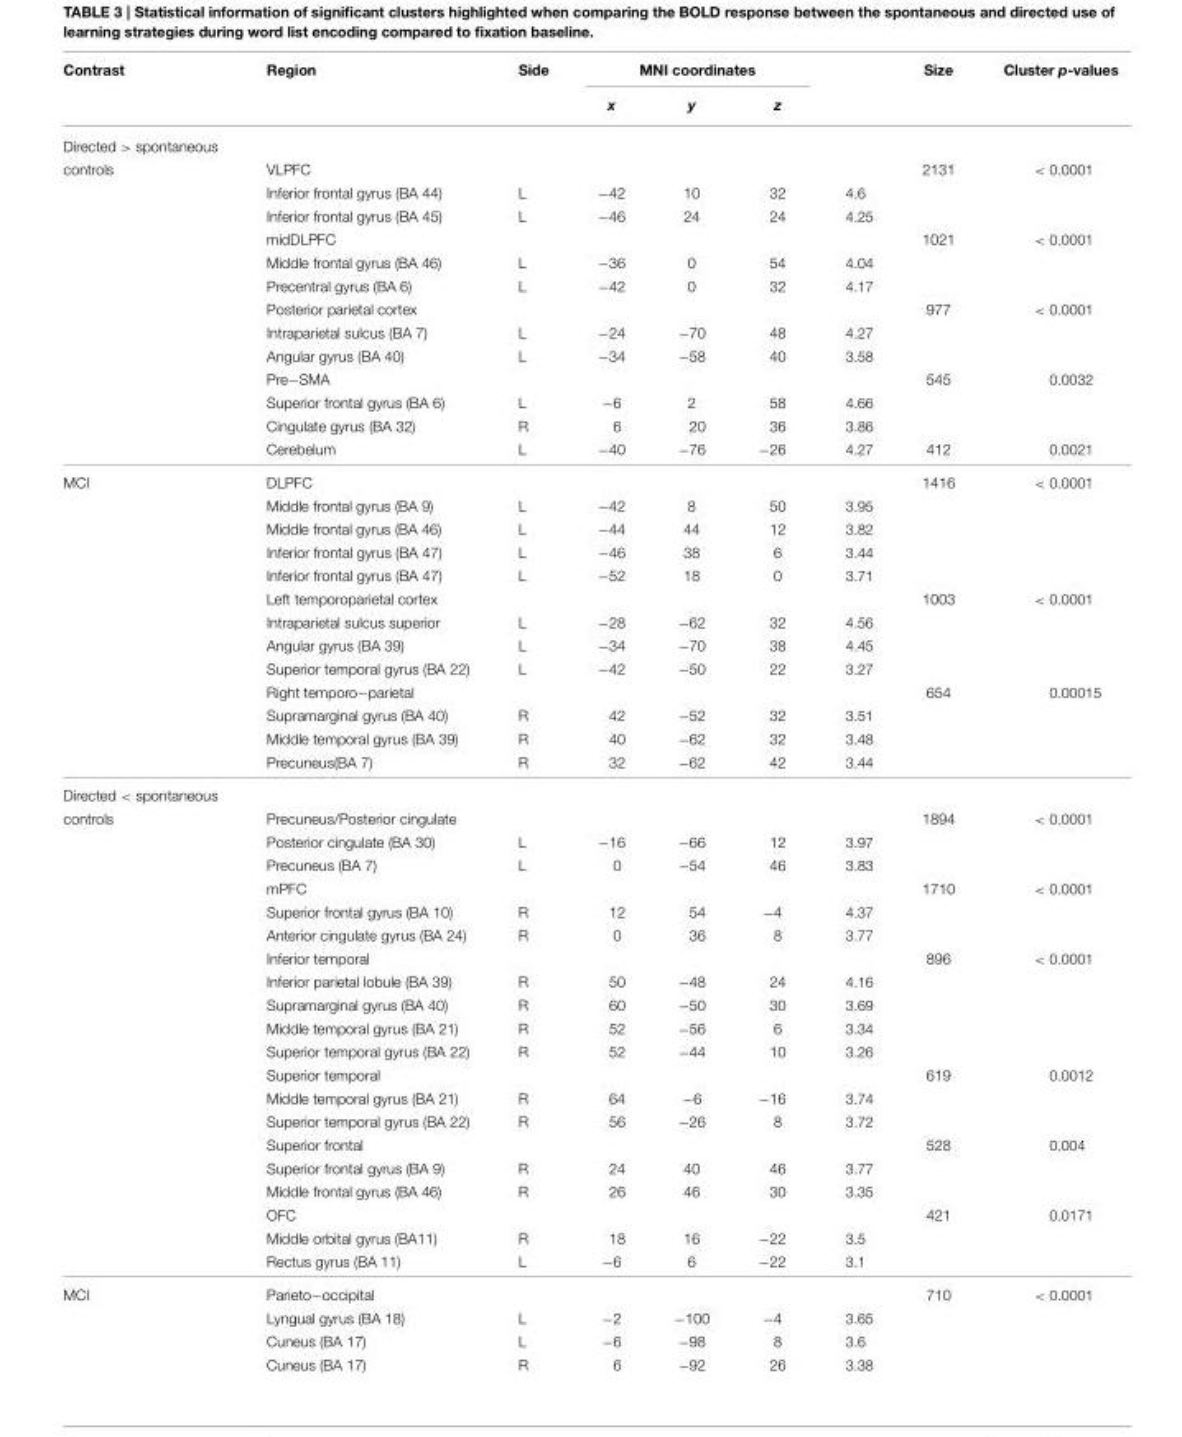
<table><thead><tr><td rowspan="2">Contrast</td><td rowspan="2">Region</td><td rowspan="2">Side</td><td colspan="3">MNI coordinates</td><td rowspan="2"></td><td rowspan="2">Size</td><td rowspan="2">Cluster p-values</td></tr><tr><td>x</td><td>y</td><td>z</td></tr></thead><tbody><tr><td colspan="9">Directed &gt; spontaneous</td></tr><tr><td rowspan="13">controls</td><td>VLPFC</td><td></td><td></td><td></td><td></td><td></td><td>2131</td><td>&lt; 0.0001</td></tr><tr><td>Inferior frontal gyrus (BA 44)</td><td>L</td><td>−42</td><td>10</td><td>32</td><td>4.6</td><td></td><td></td></tr><tr><td>Inferior frontal gyrus (BA 45)</td><td>L</td><td>−46</td><td>24</td><td>24</td><td>4.25</td><td></td><td></td></tr><tr><td>midDLPFC</td><td></td><td></td><td></td><td></td><td></td><td>1021</td><td>&lt; 0.0001</td></tr><tr><td>Middle frontal gyrus (BA 46)</td><td>L</td><td>−36</td><td>0</td><td>54</td><td>4.04</td><td></td><td></td></tr><tr><td>Precentral gyrus (BA 6)</td><td>L</td><td>−42</td><td>0</td><td>32</td><td>4.17</td><td></td><td></td></tr><tr><td>Posterior parietal cortex</td><td></td><td></td><td></td><td></td><td></td><td>977</td><td>&lt; 0.0001</td></tr><tr><td>Intraparietal sulcus (BA 7)</td><td>L</td><td>−24</td><td>−70</td><td>48</td><td>4.27</td><td></td><td></td></tr><tr><td>Angular gyrus (BA 40)</td><td>L</td><td>−34</td><td>−58</td><td>40</td><td>3.58</td><td></td><td></td></tr><tr><td>Pre−SMA</td><td></td><td></td><td></td><td></td><td></td><td>545</td><td>0.0032</td></tr><tr><td>Superior frontal gyrus (BA 6)</td><td>L</td><td>−6</td><td>2</td><td>58</td><td>4.66</td><td></td><td></td></tr><tr><td>Cingulate gyrus (BA 32)</td><td>R</td><td>6</td><td>20</td><td>36</td><td>3.86</td><td></td><td></td></tr><tr><td>Cerebelum</td><td>L</td><td>−40</td><td>−76</td><td>−26</td><td>4.27</td><td>412</td><td>0.0021</td></tr><tr><td rowspan="13">MCI</td><td>DLPFC</td><td></td><td></td><td></td><td></td><td></td><td>1416</td><td>&lt; 0.0001</td></tr><tr><td>Middle frontal gyrus (BA 9)</td><td>L</td><td>−42</td><td>8</td><td>50</td><td>3.95</td><td></td><td></td></tr><tr><td>Middle frontal gyrus (BA 46)</td><td>L</td><td>−44</td><td>44</td><td>12</td><td>3.82</td><td></td><td></td></tr><tr><td>Inferior frontal gyrus (BA 47)</td><td>L</td><td>−46</td><td>38</td><td>6</td><td>3.44</td><td></td><td></td></tr><tr><td>Inferior frontal gyrus (BA 47)</td><td>L</td><td>−52</td><td>18</td><td>0</td><td>3.71</td><td></td><td></td></tr><tr><td>Left temporoparietal cortex</td><td></td><td></td><td></td><td></td><td></td><td>1003</td><td>&lt; 0.0001</td></tr><tr><td>Intraparietal sulcus superior</td><td>L</td><td>−28</td><td>−62</td><td>32</td><td>4.56</td><td></td><td></td></tr><tr><td>Angular gyrus (BA 39)</td><td>L</td><td>−34</td><td>−70</td><td>38</td><td>4.45</td><td></td><td></td></tr><tr><td>Superior temporal gyrus (BA 22)</td><td>L</td><td>−42</td><td>−50</td><td>22</td><td>3.27</td><td></td><td></td></tr><tr><td>Right temporo−parietal</td><td></td><td></td><td></td><td></td><td></td><td>654</td><td>0.00015</td></tr><tr><td>Supramarginal gyrus (BA 40)</td><td>R</td><td>42</td><td>−52</td><td>32</td><td>3.51</td><td></td><td></td></tr><tr><td>Middle temporal gyrus (BA 39)</td><td>R</td><td>40</td><td>−62</td><td>32</td><td>3.48</td><td></td><td></td></tr><tr><td>Precuneus(BA 7)</td><td>R</td><td>32</td><td>−62</td><td>42</td><td>3.44</td><td></td><td></td></tr><tr><td colspan="9">Directed &lt; spontaneous</td></tr><tr><td rowspan="20">controls</td><td>Precuneus/Posterior cingulate</td><td></td><td></td><td></td><td></td><td></td><td>1894</td><td>&lt; 0.0001</td></tr><tr><td>Posterior cingulate (BA 30)</td><td>L</td><td>−16</td><td>−66</td><td>12</td><td>3.97</td><td></td><td></td></tr><tr><td>Precuneus (BA 7)</td><td>L</td><td>0</td><td>−54</td><td>46</td><td>3.83</td><td></td><td></td></tr><tr><td>mPFC</td><td></td><td></td><td></td><td></td><td></td><td>1710</td><td>&lt; 0.0001</td></tr><tr><td>Superior frontal gyrus (BA 10)</td><td>R</td><td>12</td><td>54</td><td>−4</td><td>4.37</td><td></td><td></td></tr><tr><td>Anterior cingulate gyrus (BA 24)</td><td>R</td><td>0</td><td>36</td><td>8</td><td>3.77</td><td></td><td></td></tr><tr><td>Inferior temporal</td><td></td><td></td><td></td><td></td><td></td><td>896</td><td>&lt; 0.0001</td></tr><tr><td>Inferior parietal lobule (BA 39)</td><td>R</td><td>50</td><td>−48</td><td>24</td><td>4.16</td><td></td><td></td></tr><tr><td>Supramarginal gyrus (BA 40)</td><td>R</td><td>60</td><td>−50</td><td>30</td><td>3.69</td><td></td><td></td></tr><tr><td>Middle temporal gyrus (BA 21)</td><td>R</td><td>52</td><td>−56</td><td>6</td><td>3.34</td><td></td><td></td></tr><tr><td>Superior temporal gyrus (BA 22)</td><td>R</td><td>52</td><td>−44</td><td>10</td><td>3.26</td><td></td><td></td></tr><tr><td>Superior temporal</td><td></td><td></td><td></td><td></td><td></td><td>619</td><td>0.0012</td></tr><tr><td>Middle temporal gyrus (BA 21)</td><td>R</td><td>64</td><td>−6</td><td>−16</td><td>3.74</td><td></td><td></td></tr><tr><td>Superior temporal gyrus (BA 22)</td><td>R</td><td>56</td><td>−26</td><td>8</td><td>3.72</td><td></td><td></td></tr><tr><td>Superior frontal</td><td></td><td></td><td></td><td></td><td></td><td>528</td><td>0.004</td></tr><tr><td>Superior frontal gyrus (BA 9)</td><td>R</td><td>24</td><td>40</td><td>46</td><td>3.77</td><td></td><td></td></tr><tr><td>Middle frontal gyrus (BA 46)</td><td>R</td><td>26</td><td>46</td><td>30</td><td>3.35</td><td></td><td></td></tr><tr><td>OFC</td><td></td><td></td><td></td><td></td><td></td><td>421</td><td>0.0171</td></tr><tr><td>Middle orbital gyrus (BA11)</td><td>R</td><td>18</td><td>16</td><td>−22</td><td>3.5</td><td></td><td></td></tr><tr><td>Rectus gyrus (BA 11)</td><td>L</td><td>−6</td><td>6</td><td>−22</td><td>3.1</td><td></td><td></td></tr><tr><td rowspan="4">MCI</td><td>Parieto−occipital</td><td></td><td></td><td></td><td></td><td></td><td>710</td><td>&lt; 0.0001</td></tr><tr><td>Lyngual gyrus (BA 18)</td><td>L</td><td>−2</td><td>−100</td><td>−4</td><td>3.65</td><td></td><td></td></tr><tr><td>Cuneus (BA 17)</td><td>L</td><td>−6</td><td>−98</td><td>8</td><td>3.6</td><td></td><td></td></tr><tr><td>Cuneus (BA 17)</td><td>R</td><td>6</td><td>−92</td><td>26</td><td>3.38</td><td></td><td></td></tr></tbody></table>